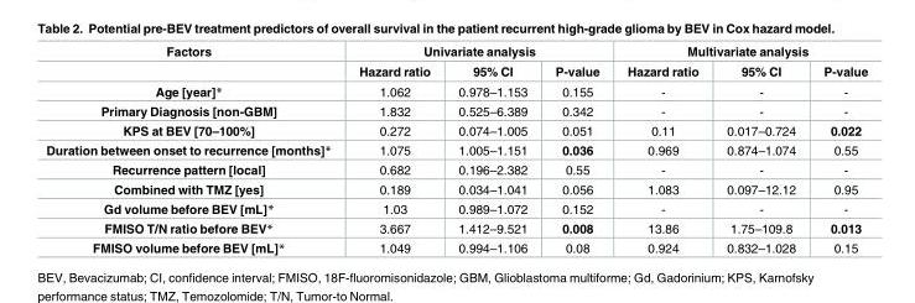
<table><thead><tr><td rowspan="2">Factors</td><td colspan="3">Univariate analysis</td><td colspan="3">Multivariate analysis</td></tr><tr><td>Hazard ratio</td><td>95% CI</td><td>P-value</td><td>Hazard ratio</td><td>95% CI</td><td>P-value</td></tr></thead><tbody><tr><td>Age [year]*</td><td>1.062</td><td>0.978–1.153</td><td>0.155</td><td>-</td><td>-</td><td>-</td></tr><tr><td>Primary Diagnosis [non-GBM]</td><td>1.832</td><td>0.525–6.389</td><td>0.342</td><td>-</td><td>-</td><td>-</td></tr><tr><td>KPS at BEV [70–100%]</td><td>0.272</td><td>0.074–1.005</td><td>0.051</td><td>0.11</td><td>0.017–0.724</td><td>0.022</td></tr><tr><td>Duration between onset to recurrence [months]*</td><td>1.075</td><td>1.005–1.151</td><td>0.036</td><td>0.969</td><td>0.874–1.074</td><td>0.55</td></tr><tr><td>Recurrence pattern [local]</td><td>0.682</td><td>0.196–2.382</td><td>0.55</td><td>-</td><td>-</td><td>-</td></tr><tr><td>Combined with TMZ [yes]</td><td>0.189</td><td>0.034–1.041</td><td>0.056</td><td>1.083</td><td>0.097–12.12</td><td>0.95</td></tr><tr><td>Gd volume before BEV [mL]*</td><td>1.03</td><td>0.989–1.072</td><td>0.152</td><td>-</td><td>-</td><td>-</td></tr><tr><td>FMISO T/N ratio before BEV*</td><td>3.667</td><td>1.412–9.521</td><td>0.008</td><td>13.86</td><td>1.75–109.8</td><td>0.013</td></tr><tr><td>FMISO volume before BEV [mL]*</td><td>1.049</td><td>0.994–1.106</td><td>0.08</td><td>0.924</td><td>0.832–1.028</td><td>0.15</td></tr></tbody></table>